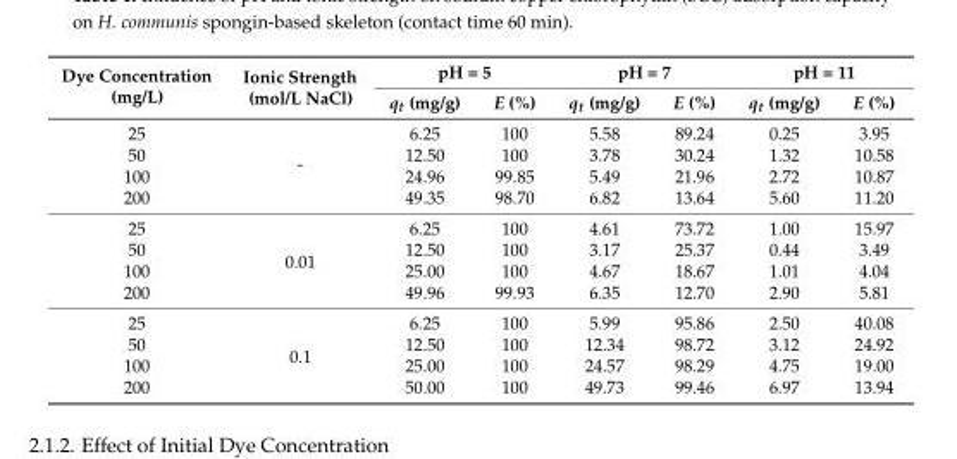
<table><thead><tr><td rowspan="2">Dye Concentration (mg/L)</td><td rowspan="2">Ionic Strength (mol/L NaCl)</td><td colspan="2">pH = 5</td><td colspan="2">pH = 7</td><td colspan="2">pH = 11</td></tr><tr><td>q<sub>t</sub> (mg/g)</td><td>E (%)</td><td>q<sub>t</sub> (mg/g)</td><td>E (%)</td><td>q<sub>t</sub> (mg/g)</td><td>E (%)</td></tr></thead><tbody><tr><td>25</td><td rowspan="4">-</td><td>6.25</td><td>100</td><td>5.58</td><td>89.24</td><td>0.25</td><td>3.95</td></tr><tr><td>50</td><td>12.50</td><td>100</td><td>3.78</td><td>30.24</td><td>1.32</td><td>10.58</td></tr><tr><td>100</td><td>24.96</td><td>99.85</td><td>5.49</td><td>21.96</td><td>2.72</td><td>10.87</td></tr><tr><td>200</td><td>49.35</td><td>98.70</td><td>6.82</td><td>13.64</td><td>5.60</td><td>11.20</td></tr><tr><td>25</td><td rowspan="4">0.01</td><td>6.25</td><td>100</td><td>4.61</td><td>73.72</td><td>1.00</td><td>15.97</td></tr><tr><td>50</td><td>12.50</td><td>100</td><td>3.17</td><td>25.37</td><td>0.44</td><td>3.49</td></tr><tr><td>100</td><td>25.00</td><td>100</td><td>4.67</td><td>18.67</td><td>1.01</td><td>4.04</td></tr><tr><td>200</td><td>49.96</td><td>99.93</td><td>6.35</td><td>12.70</td><td>2.90</td><td>5.81</td></tr><tr><td>25</td><td rowspan="4">0.1</td><td>6.25</td><td>100</td><td>5.99</td><td>95.86</td><td>2.50</td><td>40.08</td></tr><tr><td>50</td><td>12.50</td><td>100</td><td>12.34</td><td>98.72</td><td>3.12</td><td>24.92</td></tr><tr><td>100</td><td>25.00</td><td>100</td><td>24.57</td><td>98.29</td><td>4.75</td><td>19.00</td></tr><tr><td>200</td><td>50.00</td><td>100</td><td>49.73</td><td>99.46</td><td>6.97</td><td>13.94</td></tr></tbody></table>